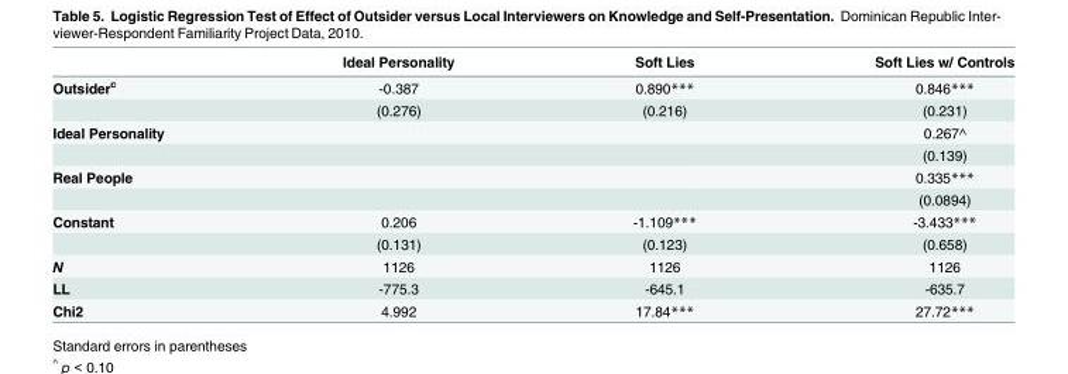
<table><thead><tr><td></td><td>Ideal Personality</td><td>Soft Lies</td><td>Soft Lies w/ Controls</td></tr></thead><tbody><tr><td rowspan="2">Outsider<sup>c</sup></td><td>-0.387</td><td>0.890***</td><td>0.846***</td></tr><tr><td>(0.276)</td><td>(0.216)</td><td>(0.231)</td></tr><tr><td rowspan="2">Ideal Personality</td><td></td><td></td><td>0.267^</td></tr><tr><td></td><td></td><td>(0.139)</td></tr><tr><td rowspan="2">Real People</td><td></td><td></td><td>0.335***</td></tr><tr><td></td><td></td><td>(0.0894)</td></tr><tr><td rowspan="2">Constant</td><td>0.206</td><td>-1.109***</td><td>-3.433***</td></tr><tr><td>(0.131)</td><td>(0.123)</td><td>(0.658)</td></tr><tr><td>N</td><td>1126</td><td>1126</td><td>1126</td></tr><tr><td>LL</td><td>-775.3</td><td>-645.1</td><td>-635.7</td></tr><tr><td>Chi2</td><td>4.992</td><td>17.84***</td><td>27.72***</td></tr></tbody></table>